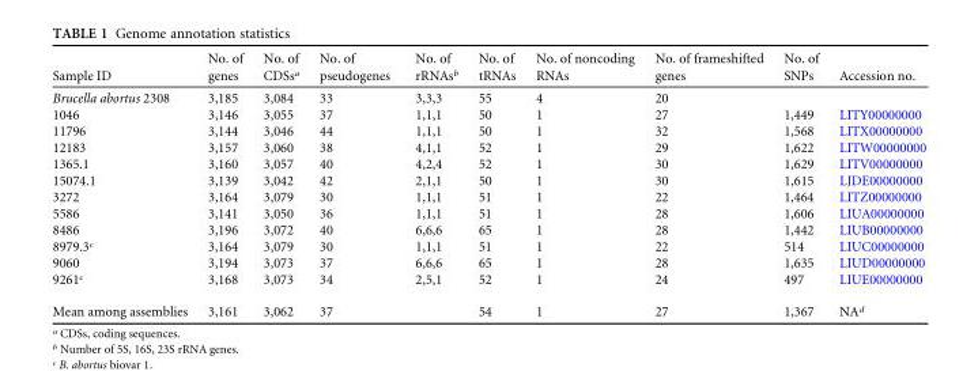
<table><thead><tr><td>Sample ID</td><td>No. of genes</td><td>No. of CDSs<sup>a</sup></td><td>No. of pseudogenes</td><td>No. of rRNAs<sup>b</sup></td><td>No. of tRNAs</td><td>No. of noncoding RNAs</td><td>No. of frameshifted genes</td><td>No. of SNPs</td><td>Accession no.</td></tr></thead><tbody><tr><td>Brucella abortus 2308</td><td>3,185</td><td>3,084</td><td>33</td><td>3,3,3</td><td>55</td><td>4</td><td>20</td><td></td><td></td></tr><tr><td>1046</td><td>3,146</td><td>3,055</td><td>37</td><td>1,1,1</td><td>50</td><td>1</td><td>27</td><td>1,449</td><td>LITY00000000</td></tr><tr><td>11796</td><td>3,144</td><td>3,046</td><td>44</td><td>1,1,1</td><td>50</td><td>1</td><td>32</td><td>1,568</td><td>LITX00000000</td></tr><tr><td>12183</td><td>3,157</td><td>3,060</td><td>38</td><td>4,1,1</td><td>52</td><td>1</td><td>29</td><td>1,622</td><td>LITW00000000</td></tr><tr><td>1365.1</td><td>3,160</td><td>3,057</td><td>40</td><td>4,2,4</td><td>52</td><td>1</td><td>30</td><td>1,629</td><td>LITV00000000</td></tr><tr><td>15074.1</td><td>3,139</td><td>3,042</td><td>42</td><td>2,1,1</td><td>50</td><td>1</td><td>30</td><td>1,615</td><td>LJDE00000000</td></tr><tr><td>3272</td><td>3,164</td><td>3,079</td><td>30</td><td>1,1,1</td><td>51</td><td>1</td><td>22</td><td>1,464</td><td>LITZ00000000</td></tr><tr><td>5586</td><td>3,141</td><td>3,050</td><td>36</td><td>1,1,1</td><td>51</td><td>1</td><td>28</td><td>1,606</td><td>LIUA00000000</td></tr><tr><td>8486</td><td>3,196</td><td>3,072</td><td>40</td><td>6,6,6</td><td>65</td><td>1</td><td>28</td><td>1,442</td><td>LIUB00000000</td></tr><tr><td>8979.3<sup>c</sup></td><td>3,164</td><td>3,079</td><td>30</td><td>1,1,1</td><td>51</td><td>1</td><td>22</td><td>514</td><td>LIUC00000000</td></tr><tr><td>9060</td><td>3,194</td><td>3,073</td><td>37</td><td>6,6,6</td><td>65</td><td>1</td><td>28</td><td>1,635</td><td>LIUD00000000</td></tr><tr><td>9261<sup>c</sup></td><td>3,168</td><td>3,073</td><td>34</td><td>2,5,1</td><td>52</td><td>1</td><td>24</td><td>497</td><td>LIUE00000000</td></tr><tr><td>Mean among assemblies</td><td>3,161</td><td>3,062</td><td>37</td><td></td><td>54</td><td>1</td><td>27</td><td>1,367</td><td>NA<sup>d</sup></td></tr></tbody></table>